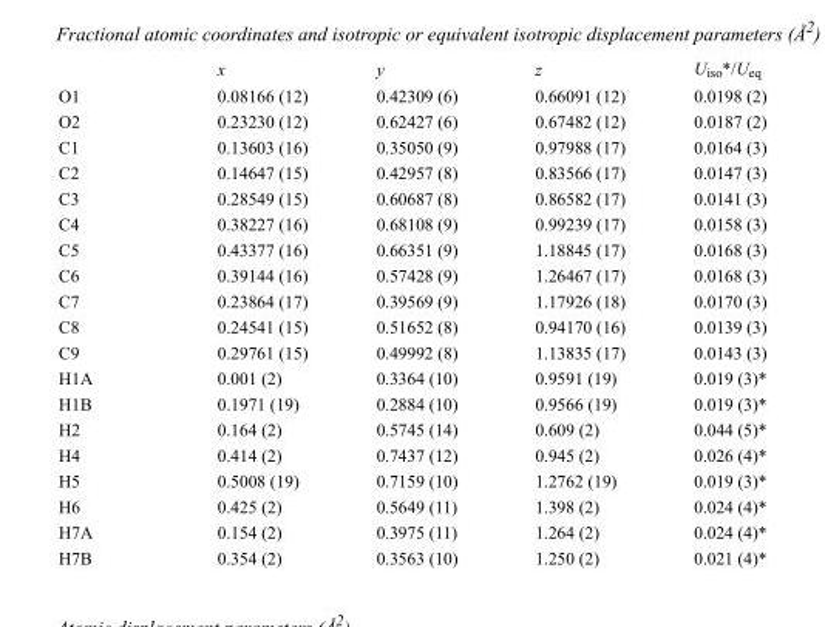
<table><thead><tr><td></td><td>x</td><td>y</td><td>z</td><td>U<sub>iso</sub>*/U<sub>eq</sub></td></tr></thead><tbody><tr><td>O1</td><td>0.08166 (12)</td><td>0.42309 (6)</td><td>0.66091 (12)</td><td>0.0198 (2)</td></tr><tr><td>O2</td><td>0.23230 (12)</td><td>0.62427 (6)</td><td>0.67482 (12)</td><td>0.0187 (2)</td></tr><tr><td>C1</td><td>0.13603 (16)</td><td>0.35050 (9)</td><td>0.97988 (17)</td><td>0.0164 (3)</td></tr><tr><td>C2</td><td>0.14647 (15)</td><td>0.42957 (8)</td><td>0.83566 (17)</td><td>0.0147 (3)</td></tr><tr><td>C3</td><td>0.28549 (15)</td><td>0.60687 (8)</td><td>0.86582 (17)</td><td>0.0141 (3)</td></tr><tr><td>C4</td><td>0.38227 (16)</td><td>0.68108 (9)</td><td>0.99239 (17)</td><td>0.0158 (3)</td></tr><tr><td>C5</td><td>0.43377 (16)</td><td>0.66351 (9)</td><td>1.18845 (17)</td><td>0.0168 (3)</td></tr><tr><td>C6</td><td>0.39144 (16)</td><td>0.57428 (9)</td><td>1.26467 (17)</td><td>0.0168 (3)</td></tr><tr><td>C7</td><td>0.23864 (17)</td><td>0.39569 (9)</td><td>1.17926 (18)</td><td>0.0170 (3)</td></tr><tr><td>C8</td><td>0.24541 (15)</td><td>0.51652 (8)</td><td>0.94170 (16)</td><td>0.0139 (3)</td></tr><tr><td>C9</td><td>0.29761 (15)</td><td>0.49992 (8)</td><td>1.13835 (17)</td><td>0.0143 (3)</td></tr><tr><td>H1A</td><td>0.001 (2)</td><td>0.3364 (10)</td><td>0.9591 (19)</td><td>0.019 (3)*</td></tr><tr><td>H1B</td><td>0.1971 (19)</td><td>0.2884 (10)</td><td>0.9566 (19)</td><td>0.019 (3)*</td></tr><tr><td>H2</td><td>0.164 (2)</td><td>0.5745 (14)</td><td>0.609 (2)</td><td>0.044 (5)*</td></tr><tr><td>H4</td><td>0.414 (2)</td><td>0.7437 (12)</td><td>0.945 (2)</td><td>0.026 (4)*</td></tr><tr><td>H5</td><td>0.5008 (19)</td><td>0.7159 (10)</td><td>1.2762 (19)</td><td>0.019 (3)*</td></tr><tr><td>H6</td><td>0.425 (2)</td><td>0.5649 (11)</td><td>1.398 (2)</td><td>0.024 (4)*</td></tr><tr><td>H7A</td><td>0.154 (2)</td><td>0.3975 (11)</td><td>1.264 (2)</td><td>0.024 (4)*</td></tr><tr><td>H7B</td><td>0.354 (2)</td><td>0.3563 (10)</td><td>1.250 (2)</td><td>0.021 (4)*</td></tr></tbody></table>